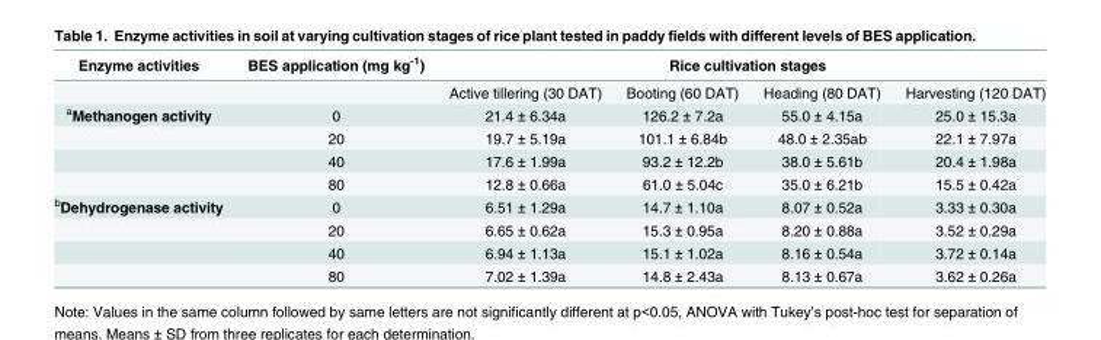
<table><thead><tr><td rowspan="2">Enzyme activities</td><td rowspan="2">BES application (mg kg<sup>-1</sup>)</td><td colspan="4">Rice cultivation stages</td></tr><tr><td>Active tillering (30 DAT)</td><td>Booting (60 DAT)</td><td>Heading (80 DAT)</td><td>Harvesting (120 DAT)</td></tr></thead><tbody><tr><td rowspan="4"><sup>a</sup>Methanogen activity</td><td>0</td><td>21.4 ± 6.34a</td><td>126.2 ± 7.2a</td><td>55.0 ± 4.15a</td><td>25.0 ± 15.3a</td></tr><tr><td>20</td><td>19.7 ± 5.19a</td><td>101.1 ± 6.84b</td><td>48.0 ± 2.35ab</td><td>22.1 ± 7.97a</td></tr><tr><td>40</td><td>17.6 ± 1.99a</td><td>93.2 ± 12.2b</td><td>38.0 ± 5.61b</td><td>20.4 ± 1.98a</td></tr><tr><td>80</td><td>12.8 ± 0.66a</td><td>61.0 ± 5.04c</td><td>35.0 ± 6.21b</td><td>15.5 ± 0.42a</td></tr><tr><td rowspan="4"><sup>b</sup>Dehydrogenase activity</td><td>0</td><td>6.51 ± 1.29a</td><td>14.7 ± 1.10a</td><td>8.07 ± 0.52a</td><td>3.33 ± 0.30a</td></tr><tr><td>20</td><td>6.65 ± 0.62a</td><td>15.3 ± 0.95a</td><td>8.20 ± 0.88a</td><td>3.52 ± 0.29a</td></tr><tr><td>40</td><td>6.94 ± 1.13a</td><td>15.1 ± 1.02a</td><td>8.16 ± 0.54a</td><td>3.72 ± 0.14a</td></tr><tr><td>80</td><td>7.02 ± 1.39a</td><td>14.8 ± 2.43a</td><td>8.13 ± 0.67a</td><td>3.62 ± 0.26a</td></tr></tbody></table>